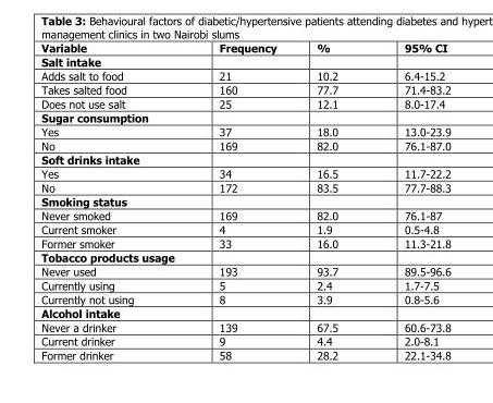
<table><thead><tr><td>Variable</td><td>Frequency</td><td>%</td><td>95% CI</td></tr></thead><tbody><tr><td colspan="4">Salt intake</td></tr><tr><td>Adds salt to food</td><td>21</td><td>10.2</td><td>6.4-15.2</td></tr><tr><td>Takes salted food</td><td>160</td><td>77.7</td><td>71.4-83.2</td></tr><tr><td>Does not use salt</td><td>25</td><td>12.1</td><td>8.0-17.4</td></tr><tr><td colspan="4">Sugar consumption</td></tr><tr><td>Yes</td><td>37</td><td>18.0</td><td>13.0-23.9</td></tr><tr><td>No</td><td>169</td><td>82.0</td><td>76.1-87.0</td></tr><tr><td colspan="4">Soft drinks intake</td></tr><tr><td>Yes</td><td>34</td><td>16.5</td><td>11.7-22.2</td></tr><tr><td>No</td><td>172</td><td>83.5</td><td>77.7-88.3</td></tr><tr><td colspan="4">Smoking status</td></tr><tr><td>Never smoked</td><td>169</td><td>82.0</td><td>76.1-87</td></tr><tr><td>Current smoker</td><td>4</td><td>1.9</td><td>0.5-4.8</td></tr><tr><td>Former smoker</td><td>33</td><td>16.0</td><td>11.3-21.8</td></tr><tr><td colspan="4">Tobacco products usage</td></tr><tr><td>Never used</td><td>193</td><td>93.7</td><td>89.5-96.6</td></tr><tr><td>Currently using</td><td>5</td><td>2.4</td><td>1.7-7.5</td></tr><tr><td>Currently not using</td><td>8</td><td>3.9</td><td>0.8-5.6</td></tr><tr><td colspan="4">Alcohol intake</td></tr><tr><td>Never a drinker</td><td>139</td><td>67.5</td><td>60.6-73.8</td></tr><tr><td>Current drinker</td><td>9</td><td>4.4</td><td>2.0-8.1</td></tr><tr><td>Former drinker</td><td>58</td><td>28.2</td><td>22.1-34.8</td></tr></tbody></table>